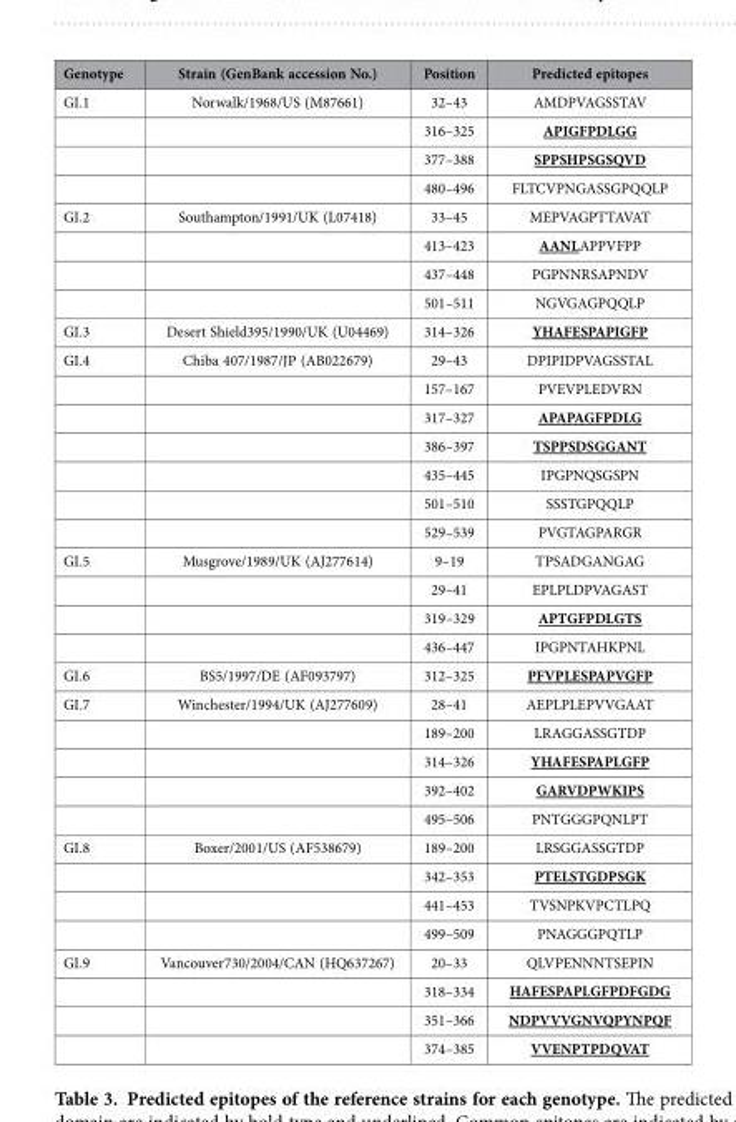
<table><thead><tr><td>Genotype</td><td>Strain (GenBank accession No.)</td><td>Position</td><td>Predicted epitopes</td></tr></thead><tbody><tr><td rowspan="4">GI.1</td><td>Norwalk/1968/US (M87661)</td><td>32–43</td><td>AMDPVAGSSTAV</td></tr><tr><td></td><td>316–325</td><td>APIGFPDLGG</td></tr><tr><td></td><td>377–388</td><td>SPPSHPSGSQVD</td></tr><tr><td></td><td>480–496</td><td>FLTCVPNGASSGPQQLP</td></tr><tr><td rowspan="4">GI.2</td><td>Southampton/1991/UK (L07418)</td><td>33–45</td><td>MEPVAGPTTAVAT</td></tr><tr><td></td><td>413–423</td><td>AANLAPPVFPP</td></tr><tr><td></td><td>437–448</td><td>PGPNNRSAPNDV</td></tr><tr><td></td><td>501–511</td><td>NGVGAGPQQLP</td></tr><tr><td>GI.3</td><td>Desert Shield395/1990/UK (U04469)</td><td>314–326</td><td>YHAFESPAPIGFP</td></tr><tr><td rowspan="7">GI.4</td><td>Chiba 407/1987/JP (AB022679)</td><td>29–43</td><td>DPIPIDPVAGSSTAL</td></tr><tr><td></td><td>157–167</td><td>PVEVPLEDVRN</td></tr><tr><td></td><td>317–327</td><td>APAPAGFPDLG</td></tr><tr><td></td><td>386–397</td><td>TSPPSDSGGANT</td></tr><tr><td></td><td>435–445</td><td>IPGPNQSGSPN</td></tr><tr><td></td><td>501–510</td><td>SSSTGPQQLP</td></tr><tr><td></td><td>529–539</td><td>PVGTAGPARGR</td></tr><tr><td rowspan="4">GI.5</td><td>Musgrove/1989/UK (AJ277614)</td><td>9–19</td><td>TPSADGANGAG</td></tr><tr><td></td><td>29–41</td><td>EPLPLDPVAGAST</td></tr><tr><td></td><td>319–329</td><td>APTGFPDLGTS</td></tr><tr><td></td><td>436–447</td><td>IPGPNTAHKPNL</td></tr><tr><td>GI.6</td><td>BS5/1997/DE (AF093797)</td><td>312–325</td><td>PFVPLESPAPVGFP</td></tr><tr><td rowspan="5">GI.7</td><td>Winchester/1994/UK (AJ277609)</td><td>28–41</td><td>AEPLPLEPVVGAAT</td></tr><tr><td></td><td>189–200</td><td>LRAGGASSGTDP</td></tr><tr><td></td><td>314–326</td><td>YHAFESPAPLGFP</td></tr><tr><td></td><td>392–402</td><td>GARVDPWKIPS</td></tr><tr><td></td><td>495–506</td><td>PNTGGGPQNLPT</td></tr><tr><td rowspan="4">GI.8</td><td>Boxer/2001/US (AF538679)</td><td>189–200</td><td>LRSGGASSGTDP</td></tr><tr><td></td><td>342–353</td><td>PTELSTGDPSGK</td></tr><tr><td></td><td>441–453</td><td>TVSNPKVPCTLPQ</td></tr><tr><td></td><td>499–509</td><td>PNAGGGPQTLP</td></tr><tr><td rowspan="4">GI.9</td><td>Vancouver730/2004/CAN (HQ637267)</td><td>20–33</td><td>QLVPENNNTSEPIN</td></tr><tr><td></td><td>318–334</td><td>HAFESPAPLGFPDFGDG</td></tr><tr><td></td><td>351–366</td><td>NDPVVVGNVQPYNPQF</td></tr><tr><td></td><td>374–385</td><td>VVENPTPDQVAT</td></tr></tbody></table>